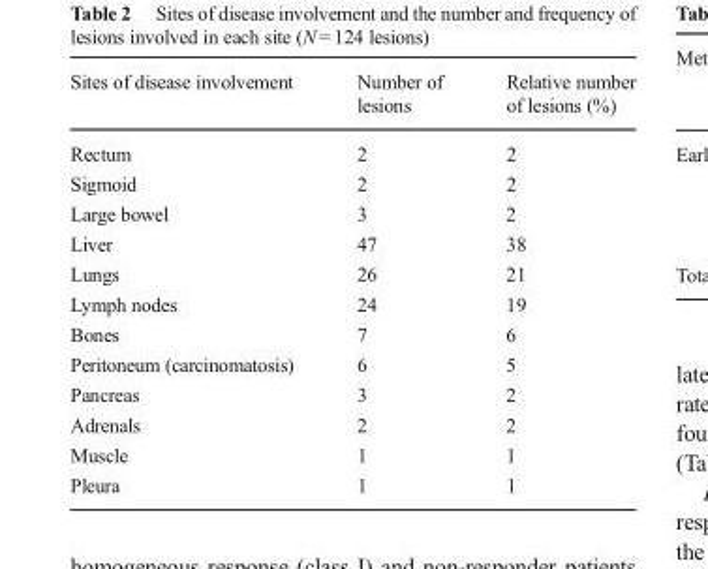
<table><thead><tr><td>Sites of disease involvement</td><td>Number of lesions</td><td>Relative number of lesions (%)</td></tr></thead><tbody><tr><td>Rectum</td><td>2</td><td>2</td></tr><tr><td>Sigmoid</td><td>2</td><td>2</td></tr><tr><td>Large bowel</td><td>3</td><td>2</td></tr><tr><td>Liver</td><td>47</td><td>38</td></tr><tr><td>Lungs</td><td>26</td><td>21</td></tr><tr><td>Lymph nodes</td><td>24</td><td>19</td></tr><tr><td>Bones</td><td>7</td><td>6</td></tr><tr><td>Peritoneum (carcinomatosis)</td><td>6</td><td>5</td></tr><tr><td>Pancreas</td><td>3</td><td>2</td></tr><tr><td>Adrenals</td><td>2</td><td>2</td></tr><tr><td>Muscle</td><td>1</td><td>1</td></tr><tr><td>Pleura</td><td>1</td><td>1</td></tr></tbody></table>